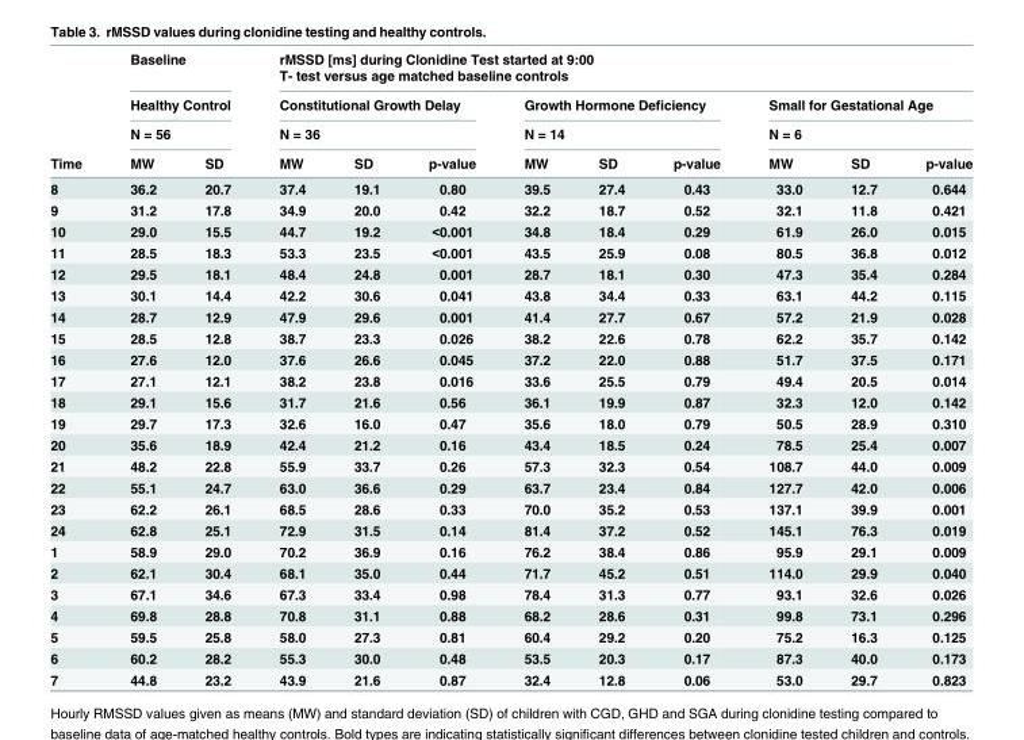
<table><thead><tr><td rowspan="4">Time</td><td rowspan="3" colspan="2">Baseline Healthy Control N = 56</td><td colspan="9">rMSSD [ms] during Clonidine Test started at 9:00 T- test versus age matched baseline controls</td></tr><tr><td rowspan="2" colspan="3">Constitutional Growth Delay N = 36</td><td rowspan="2" colspan="3">Growth Hormone Deficiency N = 14</td><td rowspan="2" colspan="3">Small for Gestational Age N = 6</td></tr><tr></tr><tr><td>MW</td><td>SD</td><td>MW</td><td>SD</td><td>p-value</td><td>MW</td><td>SD</td><td>p-value</td><td>MW</td><td>SD</td><td>p-value</td></tr></thead><tbody><tr><td>8</td><td>36.2</td><td>20.7</td><td>37.4</td><td>19.1</td><td>0.80</td><td>39.5</td><td>27.4</td><td>0.43</td><td>33.0</td><td>12.7</td><td>0.644</td></tr><tr><td>9</td><td>31.2</td><td>17.8</td><td>34.9</td><td>20.0</td><td>0.42</td><td>32.2</td><td>18.7</td><td>0.52</td><td>32.1</td><td>11.8</td><td>0.421</td></tr><tr><td>10</td><td>29.0</td><td>15.5</td><td>44.7</td><td>19.2</td><td>&lt;0.001</td><td>34.8</td><td>18.4</td><td>0.29</td><td>61.9</td><td>26.0</td><td>0.015</td></tr><tr><td>11</td><td>28.5</td><td>18.3</td><td>53.3</td><td>23.5</td><td>&lt;0.001</td><td>43.5</td><td>25.9</td><td>0.08</td><td>80.5</td><td>36.8</td><td>0.012</td></tr><tr><td>12</td><td>29.5</td><td>18.1</td><td>48.4</td><td>24.8</td><td>0.001</td><td>28.7</td><td>18.1</td><td>0.30</td><td>47.3</td><td>35.4</td><td>0.284</td></tr><tr><td>13</td><td>30.1</td><td>14.4</td><td>42.2</td><td>30.6</td><td>0.041</td><td>43.8</td><td>34.4</td><td>0.33</td><td>63.1</td><td>44.2</td><td>0.115</td></tr><tr><td>14</td><td>28.7</td><td>12.9</td><td>47.9</td><td>29.6</td><td>0.001</td><td>41.4</td><td>27.7</td><td>0.67</td><td>57.2</td><td>21.9</td><td>0.028</td></tr><tr><td>15</td><td>28.5</td><td>12.8</td><td>38.7</td><td>23.3</td><td>0.026</td><td>38.2</td><td>22.6</td><td>0.78</td><td>62.2</td><td>35.7</td><td>0.142</td></tr><tr><td>16</td><td>27.6</td><td>12.0</td><td>37.6</td><td>26.6</td><td>0.045</td><td>37.2</td><td>22.0</td><td>0.88</td><td>51.7</td><td>37.5</td><td>0.171</td></tr><tr><td>17</td><td>27.1</td><td>12.1</td><td>38.2</td><td>23.8</td><td>0.016</td><td>33.6</td><td>25.5</td><td>0.79</td><td>49.4</td><td>20.5</td><td>0.014</td></tr><tr><td>18</td><td>29.1</td><td>15.6</td><td>31.7</td><td>21.6</td><td>0.56</td><td>36.1</td><td>19.9</td><td>0.87</td><td>32.3</td><td>12.0</td><td>0.142</td></tr><tr><td>19</td><td>29.7</td><td>17.3</td><td>32.6</td><td>16.0</td><td>0.47</td><td>35.6</td><td>18.0</td><td>0.79</td><td>50.5</td><td>28.9</td><td>0.310</td></tr><tr><td>20</td><td>35.6</td><td>18.9</td><td>42.4</td><td>21.2</td><td>0.16</td><td>43.4</td><td>18.5</td><td>0.24</td><td>78.5</td><td>25.4</td><td>0.007</td></tr><tr><td>21</td><td>48.2</td><td>22.8</td><td>55.9</td><td>33.7</td><td>0.26</td><td>57.3</td><td>32.3</td><td>0.54</td><td>108.7</td><td>44.0</td><td>0.009</td></tr><tr><td>22</td><td>55.1</td><td>24.7</td><td>63.0</td><td>36.6</td><td>0.29</td><td>63.7</td><td>23.4</td><td>0.84</td><td>127.7</td><td>42.0</td><td>0.006</td></tr><tr><td>23</td><td>62.2</td><td>26.1</td><td>68.5</td><td>28.6</td><td>0.33</td><td>70.0</td><td>35.2</td><td>0.53</td><td>137.1</td><td>39.9</td><td>0.001</td></tr><tr><td>24</td><td>62.8</td><td>25.1</td><td>72.9</td><td>31.5</td><td>0.14</td><td>81.4</td><td>37.2</td><td>0.52</td><td>145.1</td><td>76.3</td><td>0.019</td></tr><tr><td>1</td><td>58.9</td><td>29.0</td><td>70.2</td><td>36.9</td><td>0.16</td><td>76.2</td><td>38.4</td><td>0.86</td><td>95.9</td><td>29.1</td><td>0.009</td></tr><tr><td>2</td><td>62.1</td><td>30.4</td><td>68.1</td><td>35.0</td><td>0.44</td><td>71.7</td><td>45.2</td><td>0.51</td><td>114.0</td><td>29.9</td><td>0.040</td></tr><tr><td>3</td><td>67.1</td><td>34.6</td><td>67.3</td><td>33.4</td><td>0.98</td><td>78.4</td><td>31.3</td><td>0.77</td><td>93.1</td><td>32.6</td><td>0.026</td></tr><tr><td>4</td><td>69.8</td><td>28.8</td><td>70.8</td><td>31.1</td><td>0.88</td><td>68.2</td><td>28.6</td><td>0.31</td><td>99.8</td><td>73.1</td><td>0.296</td></tr><tr><td>5</td><td>59.5</td><td>25.8</td><td>58.0</td><td>27.3</td><td>0.81</td><td>60.4</td><td>29.2</td><td>0.20</td><td>75.2</td><td>16.3</td><td>0.125</td></tr><tr><td>6</td><td>60.2</td><td>28.2</td><td>55.3</td><td>30.0</td><td>0.48</td><td>53.5</td><td>20.3</td><td>0.17</td><td>87.3</td><td>40.0</td><td>0.173</td></tr><tr><td>7</td><td>44.8</td><td>23.2</td><td>43.9</td><td>21.6</td><td>0.87</td><td>32.4</td><td>12.8</td><td>0.06</td><td>53.0</td><td>29.7</td><td>0.823</td></tr></tbody></table>